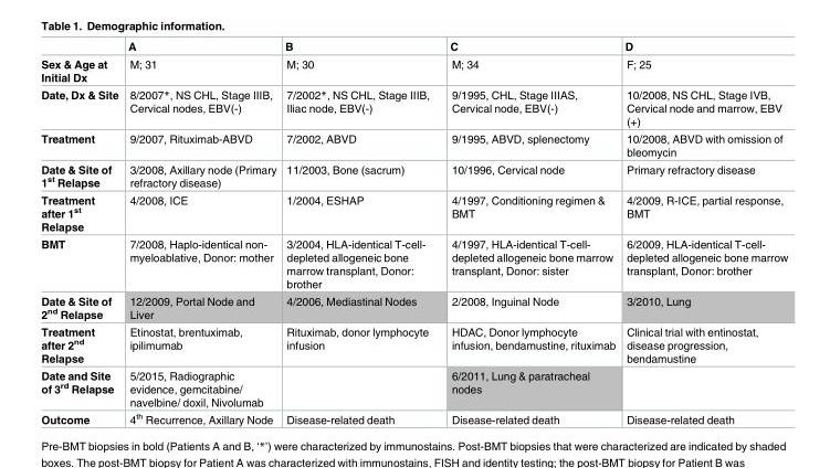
<table><thead><tr><td></td><td>A</td><td>B</td><td>C</td><td>D</td></tr></thead><tbody><tr><td>Sex &amp; Age at Initial Dx</td><td>M; 31</td><td>M; 30</td><td>M; 34</td><td>F; 25</td></tr><tr><td>Date, Dx &amp; Site</td><td>8/2007*, NS CHL, Stage IIIB, Cervical nodes, EBV(-)</td><td>7/2002*, NS CHL, Stage IIIB, Iliac node, EBV(-)</td><td>9/1995, CHL, Stage IIIAS, Cervical node, EBV(-)</td><td>10/2008, NS CHL, Stage IVB, Cervical node and marrow, EBV (+)</td></tr><tr><td>Treatment</td><td>9/2007, Rituximab-ABVD</td><td>7/2002, ABVD</td><td>9/1995, ABVD, splenectomy</td><td>10/2008, ABVD with omission of bleomycin</td></tr><tr><td>Date &amp; Site of 1<sup>st</sup> Relapse</td><td>3/2008, Axillary node (Primary refractory disease)</td><td>11/2003, Bone (sacrum)</td><td>10/1996, Cervical node</td><td>Primary refractory disease</td></tr><tr><td>Treatment after 1<sup>st</sup> Relapse</td><td>4/2008, ICE</td><td>1/2004, ESHAP</td><td>4/1997, Conditioning regimen &amp; BMT</td><td>4/2009, R-ICE, partial response, BMT</td></tr><tr><td>BMT</td><td>7/2008, Haplo-identical non- myeloablative, Donor: mother</td><td>3/2004, HLA-identical T-cell- depleted allogeneic bone marrow transplant, Donor: brother</td><td>4/1997, HLA-identical T-cell- depleted allogeneic bone marrow transplant, Donor: sister</td><td>6/2009, HLA-identical T-cell- depleted allogeneic bone marrow transplant, Donor: brother</td></tr><tr><td>Date &amp; Site of 2<sup>nd</sup> Relapse</td><td>12/2009, Portal Node and Liver</td><td>4/2006, Mediastinal Nodes</td><td>2/2008, Inguinal Node</td><td>3/2010, Lung</td></tr><tr><td>Treatment after 2<sup>nd</sup> Relapse</td><td>Etinostat, brentuximab, ipilimumab</td><td>Rituximab, donor lymphocyte infusion</td><td>HDAC, Donor lymphocyte infusion, bendamustine, rituximab</td><td>Clinical trial with entinostat, disease progression, bendamustine</td></tr><tr><td>Date and Site of 3<sup>rd</sup> Relapse</td><td>5/2015, Radiographic evidence, gemcitabine/ navelbine/ doxil, Nivolumab</td><td></td><td>6/2011, Lung &amp; paratracheal nodes</td><td></td></tr><tr><td>Outcome</td><td>4<sup>th</sup> Recurrence, Axillary Node</td><td>Disease-related death</td><td>Disease-related death</td><td>Disease-related death</td></tr></tbody></table>